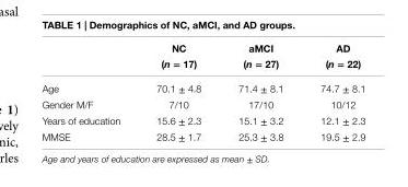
<table><thead><tr><td rowspan="2"></td><td rowspan="2">nc (n = 17)</td><td rowspan="2">aMci (n = 27)</td><td rowspan="2">aD (n = 22)</td></tr><tr></tr></thead><tbody><tr><td>Age</td><td>70.1 ± 4.8</td><td>71.4 ± 8.1</td><td>74.7 ± 8.1</td></tr><tr><td>Gender M/F</td><td>7/10</td><td>17/10</td><td>10/12</td></tr><tr><td>Years of education</td><td>15.6 ± 2.3</td><td>15.1 ± 3.2</td><td>12.1 ± 2.3</td></tr><tr><td>MMSE</td><td>28.5 ± 1.7</td><td>25.3 ± 3.8</td><td>19.5 ± 2.9</td></tr></tbody></table>